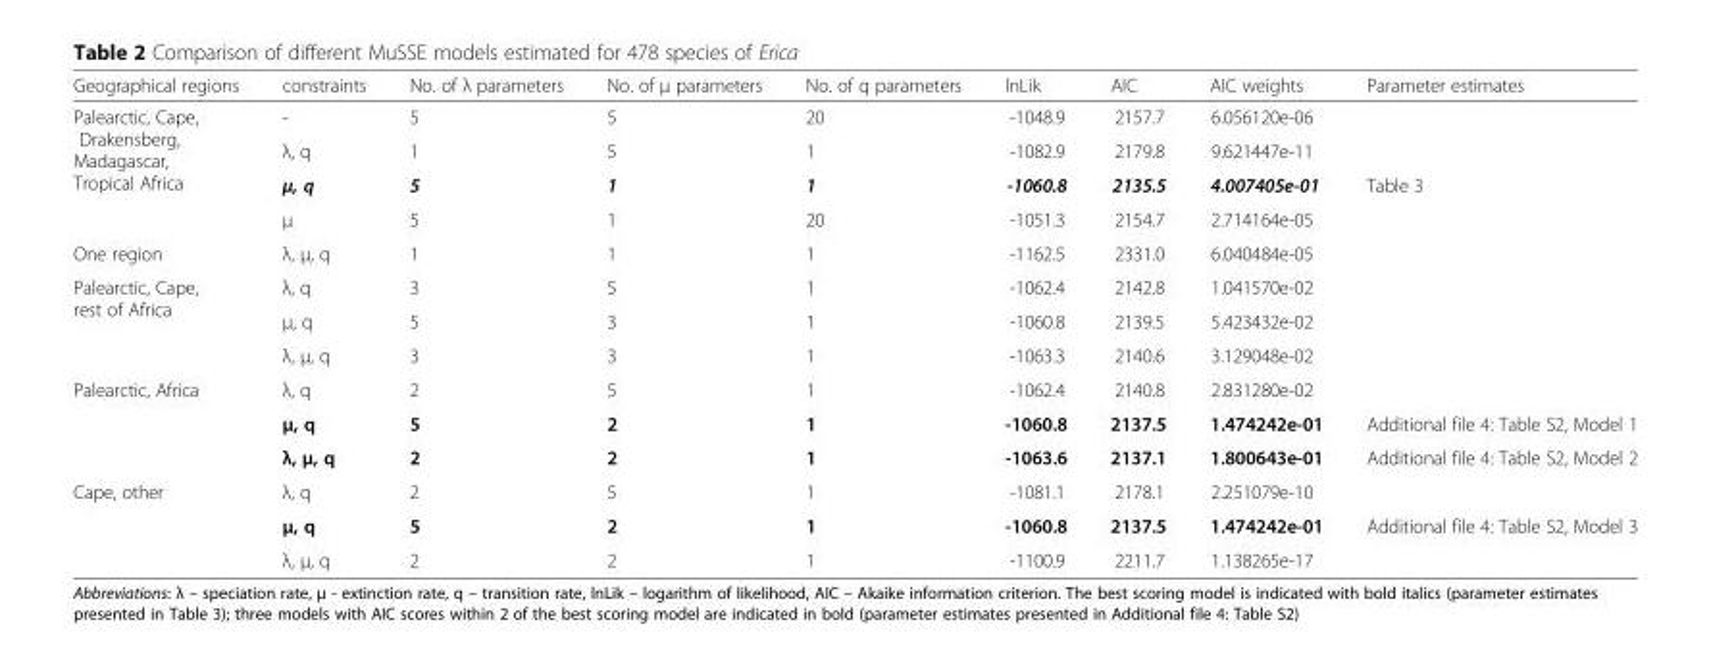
<table><thead><tr><td>Geographical regions</td><td>constraints</td><td>No. of λ parameters</td><td>No. of μ parameters</td><td>No. of q parameters</td><td>lnLik</td><td>AIC</td><td>AIC weights</td><td>Parameter estimates</td></tr></thead><tbody><tr><td rowspan="4">Palearctic, Cape, Drakensberg, Madagascar, Tropical Africa</td><td>-</td><td>5</td><td>5</td><td>20</td><td>-1048.9</td><td>2157.7</td><td>6.056120e-06</td><td></td></tr><tr><td>λ, q</td><td>1</td><td>5</td><td>1</td><td>-1082.9</td><td>2179.8</td><td>9.621447e-11</td><td></td></tr><tr><td>μ, q</td><td>5</td><td>1</td><td>1</td><td>-1060.8</td><td>2135.5</td><td>4.007405e-01</td><td>Table 3</td></tr><tr><td>μ</td><td>5</td><td>1</td><td>20</td><td>-1051.3</td><td>2154.7</td><td>2.714164e-05</td><td></td></tr><tr><td>One region</td><td>λ, μ, q</td><td>1</td><td>1</td><td>1</td><td>-1162.5</td><td>2331.0</td><td>6.040484e-05</td><td></td></tr><tr><td rowspan="3">Palearctic, Cape, rest of Africa</td><td>λ, q</td><td>3</td><td>5</td><td>1</td><td>-1062.4</td><td>2142.8</td><td>1.041570e-02</td><td></td></tr><tr><td>μ, q</td><td>5</td><td>3</td><td>1</td><td>-1060.8</td><td>2139.5</td><td>5.423432e-02</td><td></td></tr><tr><td>λ, μ, q</td><td>3</td><td>3</td><td>1</td><td>-1063.3</td><td>2140.6</td><td>3.129048e-02</td><td></td></tr><tr><td rowspan="3">Palearctic, Africa</td><td>λ, q</td><td>2</td><td>5</td><td>1</td><td>-1062.4</td><td>2140.8</td><td>2.831280e-02</td><td></td></tr><tr><td>μ, q</td><td>5</td><td>2</td><td>1</td><td>-1060.8</td><td>2137.5</td><td>1.474242e-01</td><td>Additional file 4: Table S2, Model 1</td></tr><tr><td>λ, μ, q</td><td>2</td><td>2</td><td>1</td><td>-1063.6</td><td>2137.1</td><td>1.800643e-01</td><td>Additional file 4: Table S2, Model 2</td></tr><tr><td rowspan="3">Cape, other</td><td>λ, q</td><td>2</td><td>5</td><td>1</td><td>-1081.1</td><td>2178.1</td><td>2.251079e-10</td><td></td></tr><tr><td>μ, q</td><td>5</td><td>2</td><td>1</td><td>-1060.8</td><td>2137.5</td><td>1.474242e-01</td><td>Additional file 4: Table S2, Model 3</td></tr><tr><td>λ, μ, q</td><td>2</td><td>2</td><td>1</td><td>-1100.9</td><td>2211.7</td><td>1.138265e-17</td><td></td></tr></tbody></table>